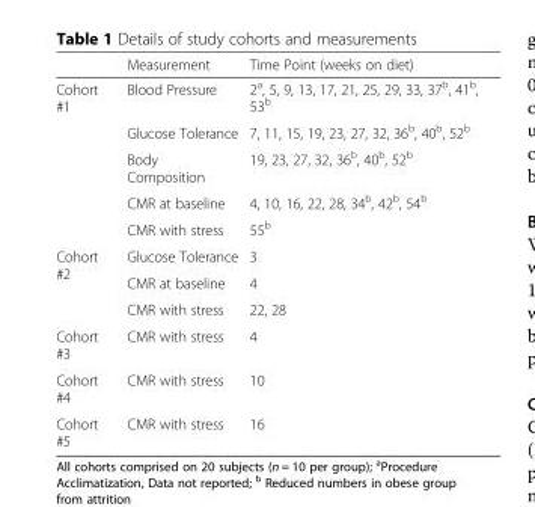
<table><thead><tr><td></td><td>Measurement</td><td>Time Point (weeks on diet)</td></tr></thead><tbody><tr><td rowspan="5">Cohort #1</td><td>Blood Pressure</td><td>2<sup>a</sup>, 5, 9, 13, 17, 21, 25, 29, 33, 37<sup>b</sup>, 41<sup>b</sup>, 53<sup>b</sup></td></tr><tr><td>Glucose Tolerance</td><td>7, 11, 15, 19, 23, 27, 32, 36<sup>b</sup>, 40<sup>b</sup>, 52<sup>b</sup></td></tr><tr><td>Body Composition</td><td>19, 23, 27, 32, 36<sup>b</sup>, 40<sup>b</sup>, 52<sup>b</sup></td></tr><tr><td>CMR at baseline</td><td>4, 10, 16, 22, 28, 34<sup>b</sup>, 42<sup>b</sup>, 54<sup>b</sup></td></tr><tr><td>CMR with stress</td><td>55<sup>b</sup></td></tr><tr><td rowspan="3">Cohort #2</td><td>Glucose Tolerance</td><td>3</td></tr><tr><td>CMR at baseline</td><td>4</td></tr><tr><td>CMR with stress</td><td>22, 28</td></tr><tr><td>Cohort #3</td><td>CMR with stress</td><td>4</td></tr><tr><td>Cohort #4</td><td>CMR with stress</td><td>10</td></tr><tr><td>Cohort #5</td><td>CMR with stress</td><td>16</td></tr></tbody></table>